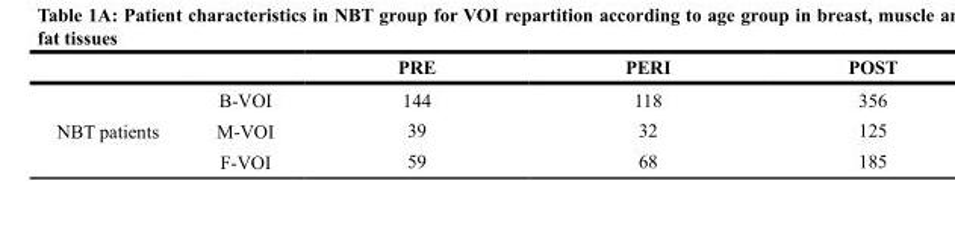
<table><thead><tr><td></td><td></td><td>PRE</td><td>PERI</td><td>POST</td></tr></thead><tbody><tr><td rowspan="3">NBT patients</td><td>B-VOI</td><td>144</td><td>118</td><td>356</td></tr><tr><td>M-VOI</td><td>39</td><td>32</td><td>125</td></tr><tr><td>F-VOI</td><td>59</td><td>68</td><td>185</td></tr></tbody></table>